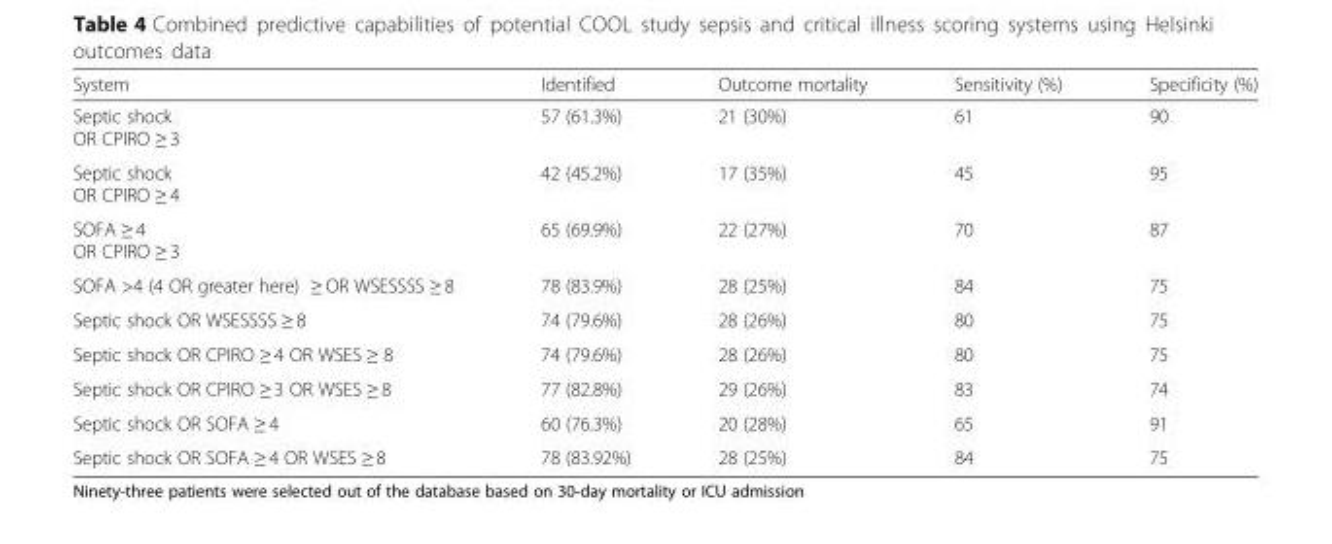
<table><thead><tr><td>System</td><td>Identified</td><td>Outcome mortality</td><td>Sensitivity (%)</td><td>Specificity (%)</td></tr></thead><tbody><tr><td>Septic shock OR CPIRO ≥ 3</td><td>57 (61.3%)</td><td>21 (30%)</td><td>61</td><td>90</td></tr><tr><td>Septic shock OR CPIRO ≥ 4</td><td>42 (45.2%)</td><td>17 (35%)</td><td>45</td><td>95</td></tr><tr><td>SOFA ≥ 4 OR CPIRO ≥ 3</td><td>65 (69.9%)</td><td>22 (27%)</td><td>70</td><td>87</td></tr><tr><td>SOFA &gt;4 (4 OR greater here) ≥ OR WSESSSS ≥ 8</td><td>78 (83.9%)</td><td>28 (25%)</td><td>84</td><td>75</td></tr><tr><td>Septic shock OR WSESSSS ≥ 8</td><td>74 (79.6%)</td><td>28 (26%)</td><td>80</td><td>75</td></tr><tr><td>Septic shock OR CPIRO ≥ 4 OR WSES ≥ 8</td><td>74 (79.6%)</td><td>28 (26%)</td><td>80</td><td>75</td></tr><tr><td>Septic shock OR CPIRO ≥ 3 OR WSES ≥ 8</td><td>77 (82.8%)</td><td>29 (26%)</td><td>83</td><td>74</td></tr><tr><td>Septic shock OR SOFA ≥ 4</td><td>60 (76.3%)</td><td>20 (28%)</td><td>65</td><td>91</td></tr><tr><td>Septic shock OR SOFA ≥ 4 OR WSES ≥ 8</td><td>78 (83.92%)</td><td>28 (25%)</td><td>84</td><td>75</td></tr></tbody></table>